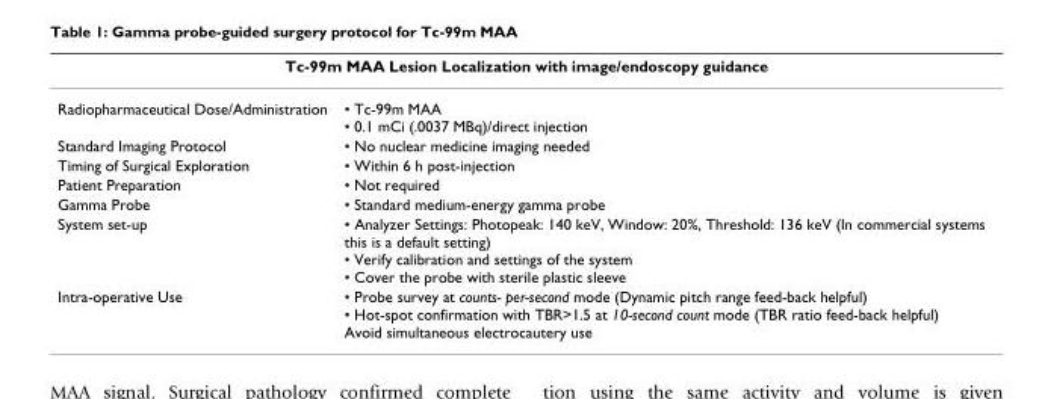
<table><thead><tr><td colspan="2">Tc-99m MAA Lesion Localization with image/endoscopy guidance</td></tr><tr><td>Radiopharmaceutical Dose/Administration</td><td>• Tc-99m MAA • 0.1 mCi (.0037 MBq)/direct injection</td></tr></thead><tbody><tr><td>Standard Imaging Protocol</td><td>• No nuclear medicine imaging needed</td></tr><tr><td>Timing of Surgical Exploration</td><td>• Within 6 h post-injection</td></tr><tr><td>Patient Preparation</td><td>• Not required</td></tr><tr><td>Gamma Probe</td><td>• Standard medium-energy gamma probe</td></tr><tr><td>System set-up</td><td>• Analyzer Settings: Photopeak: 140 keV, Window: 20%, Threshold: 136 keV (In commercial systems this is a default setting) • Verify calibration and settings of the system • Cover the probe with sterile plastic sleeve</td></tr><tr><td>Intra-operative Use</td><td>• Probe survey at counts- per-second mode (Dynamic pitch range feed-back helpful) • Hot-spot confirmation with TBR&gt;1.5 at 10-second count mode (TBR ratio feed-back helpful) Avoid simultaneous electrocautery use</td></tr></tbody></table>